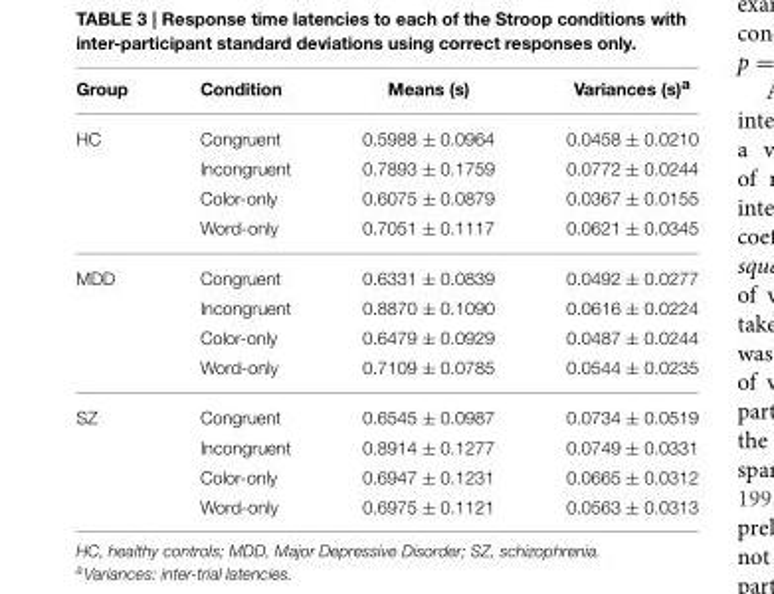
<table><thead><tr><td>Group</td><td>Condition</td><td>Means (s)</td><td>Variances (s)<sup>a</sup></td></tr></thead><tbody><tr><td rowspan="4">HC</td><td>Congruent</td><td>0.5988 ± 0.0964</td><td>0.0458 ± 0.0210</td></tr><tr><td>Incongruent</td><td>0.7893 ± 0.1759</td><td>0.0772 ± 0.0244</td></tr><tr><td>Color-only</td><td>0.6075 ± 0.0879</td><td>0.0367 ± 0.0155</td></tr><tr><td>Word-only</td><td>0.7051 ± 0.1117</td><td>0.0621 ± 0.0345</td></tr><tr><td rowspan="4">MDD</td><td>Congruent</td><td>0.6331 ± 0.0839</td><td>0.0492 ± 0.0277</td></tr><tr><td>Incongruent</td><td>0.8870 ± 0.1090</td><td>0.0616 ± 0.0224</td></tr><tr><td>Color-only</td><td>0.6479 ± 0.0929</td><td>0.0487 ± 0.0244</td></tr><tr><td>Word-only</td><td>0.7109 ± 0.0785</td><td>0.0544 ± 0.0235</td></tr><tr><td rowspan="4">SZ</td><td>Congruent</td><td>0.6545 ± 0.0987</td><td>0.0734 ± 0.0519</td></tr><tr><td>Incongruent</td><td>0.8914 ± 0.1277</td><td>0.0749 ± 0.0331</td></tr><tr><td>Color-only</td><td>0.6947 ± 0.1231</td><td>0.0665 ± 0.0312</td></tr><tr><td>Word-only</td><td>0.6975 ± 0.1121</td><td>0.0563 ± 0.0313</td></tr></tbody></table>